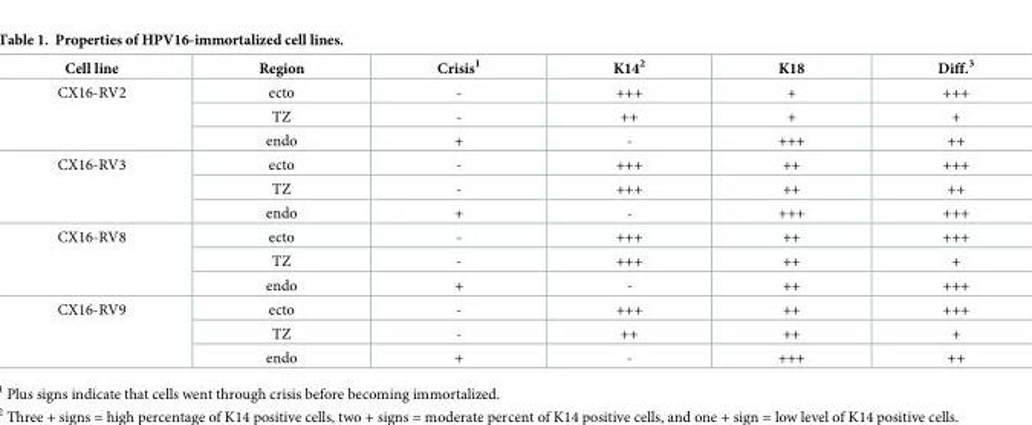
<table><thead><tr><td>Cell line</td><td>Region</td><td>Crisis<sup>1</sup></td><td>K14<sup>2</sup></td><td>K18</td><td>Diff.<sup>3</sup></td></tr></thead><tbody><tr><td rowspan="3">CX16-RV2</td><td>ecto</td><td>-</td><td>+++</td><td>+</td><td>+++</td></tr><tr><td>TZ</td><td>-</td><td>++</td><td>+</td><td>+</td></tr><tr><td>endo</td><td>+</td><td>-</td><td>+++</td><td>++</td></tr><tr><td rowspan="3">CX16-RV3</td><td>ecto</td><td>-</td><td>+++</td><td>++</td><td>+++</td></tr><tr><td>TZ</td><td>-</td><td>+++</td><td>++</td><td>++</td></tr><tr><td>endo</td><td>+</td><td>-</td><td>+++</td><td>+++</td></tr><tr><td rowspan="3">CX16-RV8</td><td>ecto</td><td>-</td><td>+++</td><td>++</td><td>+++</td></tr><tr><td>TZ</td><td>-</td><td>+++</td><td>++</td><td>+</td></tr><tr><td>endo</td><td>+</td><td>-</td><td>++</td><td>+++</td></tr><tr><td rowspan="3">CX16-RV9</td><td>ecto</td><td>-</td><td>+++</td><td>++</td><td>+++</td></tr><tr><td>TZ</td><td>-</td><td>++</td><td>++</td><td>+</td></tr><tr><td>endo</td><td>+</td><td>-</td><td>+++</td><td>++</td></tr></tbody></table>